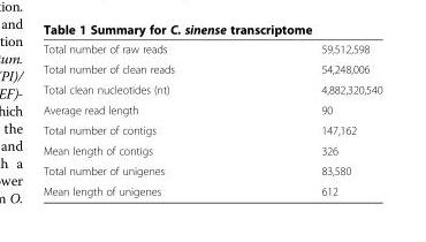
<table><tbody><tr><td>Total number of raw reads</td><td>59,512,598</td></tr><tr><td>Total number of clean reads</td><td>54,248,006</td></tr><tr><td>Total clean nucleotides (nt)</td><td>4,882,320,540</td></tr><tr><td>Average read length</td><td>90</td></tr><tr><td>Total number of contigs</td><td>147,162</td></tr><tr><td>Mean length of contigs</td><td>326</td></tr><tr><td>Total number of unigenes</td><td>83,580</td></tr><tr><td>Mean length of unigenes</td><td>612</td></tr></tbody></table>